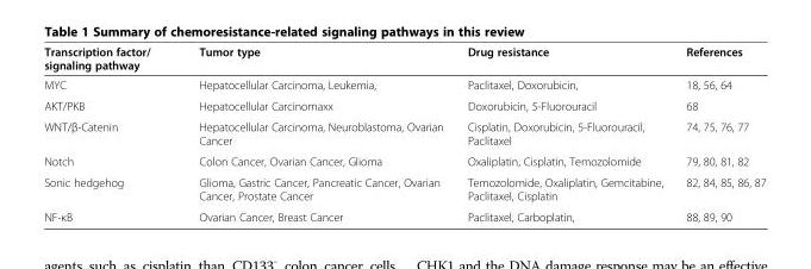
<table><thead><tr><td>Transcription factor/ signaling pathway</td><td>Tumor type</td><td>Drug resistance</td><td>References</td></tr></thead><tbody><tr><td>MYC</td><td>Hepatocellular Carcinoma, Leukemia,</td><td>Paclitaxel, Doxorubicin,</td><td>18, 56, 64</td></tr><tr><td>AKT/PKB</td><td>Hepatocellular Carcinomaxx</td><td>Doxorubicin, 5-Fluorouracil</td><td>68</td></tr><tr><td>WNT/β-Catenin</td><td>Hepatocellular Carcinoma, Neuroblastoma, Ovarian Cancer</td><td>Cisplatin, Doxorubicin, 5-Fluorouracil, Paclitaxel</td><td>74, 75, 76, 77</td></tr><tr><td>Notch</td><td>Colon Cancer, Ovarian Cancer, Glioma</td><td>Oxaliplatin, Cisplatin, Temozolomide</td><td>79, 80, 81, 82</td></tr><tr><td>Sonic hedgehog</td><td>Glioma, Gastric Cancer, Pancreatic Cancer, Ovarian Cancer, Prostate Cancer</td><td>Temozolomide, Oxaliplatin, Gemcitabine, Paclitaxel, Cisplatin</td><td>82, 84, 85, 86, 87</td></tr><tr><td>NF-κB</td><td>Ovarian Cancer, Breast Cancer</td><td>Paclitaxel, Carboplatin,</td><td>88, 89, 90</td></tr></tbody></table>